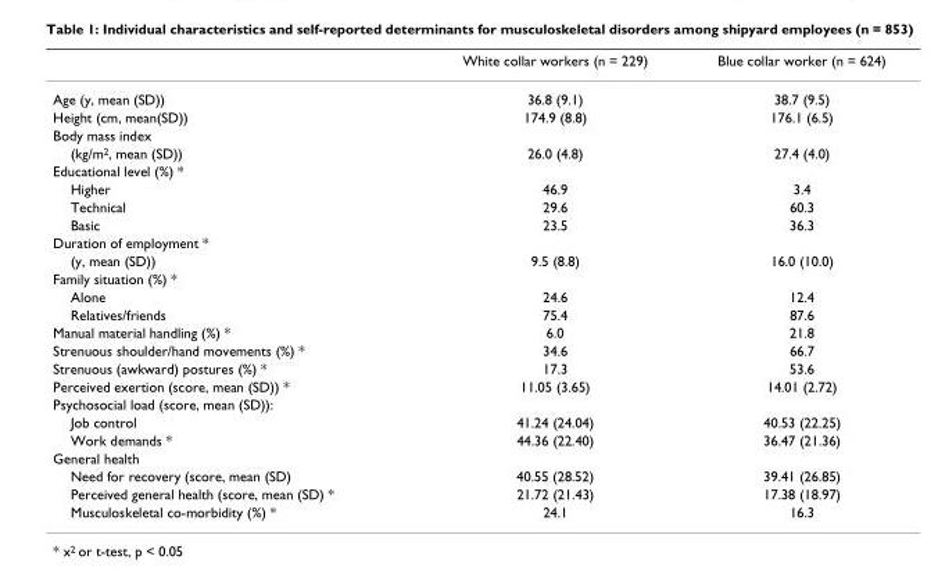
<table><thead><tr><td></td><td>White collar workers (n = 229)</td><td>Blue collar worker (n = 624)</td></tr></thead><tbody><tr><td>Age (y, mean (SD))</td><td>36.8 (9.1)</td><td>38.7 (9.5)</td></tr><tr><td>Height (cm, mean(SD))</td><td>174.9 (8.8)</td><td>176.1 (6.5)</td></tr><tr><td colspan="3">Body mass index</td></tr><tr><td>(kg/m2, mean (SD))</td><td>26.0 (4.8)</td><td>27.4 (4.0)</td></tr><tr><td colspan="3">Educational level (%) *</td></tr><tr><td>Higher</td><td>46.9</td><td>3.4</td></tr><tr><td>Technical</td><td>29.6</td><td>60.3</td></tr><tr><td>Basic</td><td>23.5</td><td>36.3</td></tr><tr><td colspan="3">Duration of employment *</td></tr><tr><td>(y, mean (SD))</td><td>9.5 (8.8)</td><td>16.0 (10.0)</td></tr><tr><td colspan="3">Family situation (%) *</td></tr><tr><td>Alone</td><td>24.6</td><td>12.4</td></tr><tr><td>Relatives/friends</td><td>75.4</td><td>87.6</td></tr><tr><td>Manual material handling (%) *</td><td>6.0</td><td>21.8</td></tr><tr><td>Strenuous shoulder/hand movements (%) *</td><td>34.6</td><td>66.7</td></tr><tr><td>Strenuous (awkward) postures (%) *</td><td>17.3</td><td>53.6</td></tr><tr><td>Perceived exertion (score, mean (SD)) *</td><td>11.05 (3.65)</td><td>14.01 (2.72)</td></tr><tr><td colspan="3">Psychosocial load (score, mean (SD)):</td></tr><tr><td>Job control</td><td>41.24 (24.04)</td><td>40.53 (22.25)</td></tr><tr><td>Work demands *</td><td>44.36 (22.40)</td><td>36.47 (21.36)</td></tr><tr><td colspan="3">General health</td></tr><tr><td>Need for recovery (score, mean (SD)</td><td>40.55 (28.52)</td><td>39.41 (26.85)</td></tr><tr><td>Perceived general health (score, mean (SD) *</td><td>21.72 (21.43)</td><td>17.38 (18.97)</td></tr><tr><td>Musculoskeletal co-morbidity (%) *</td><td>24.1</td><td>16.3</td></tr></tbody></table>